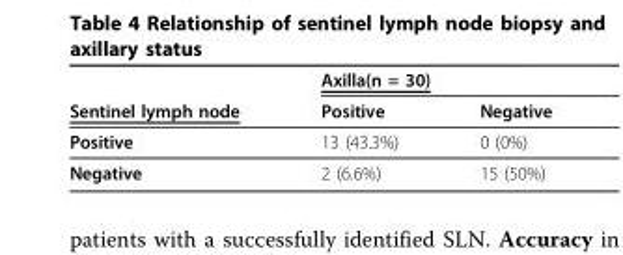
<table><thead><tr><td rowspan="2">Sentinel lymph node</td><td colspan="2">Axilla(n = 30)</td></tr><tr><td>Positive</td><td>Negative</td></tr></thead><tbody><tr><td>Positive</td><td>13 (43.3%)</td><td>0 (0%)</td></tr><tr><td>Negative</td><td>2 (6.6%)</td><td>15 (50%)</td></tr></tbody></table>